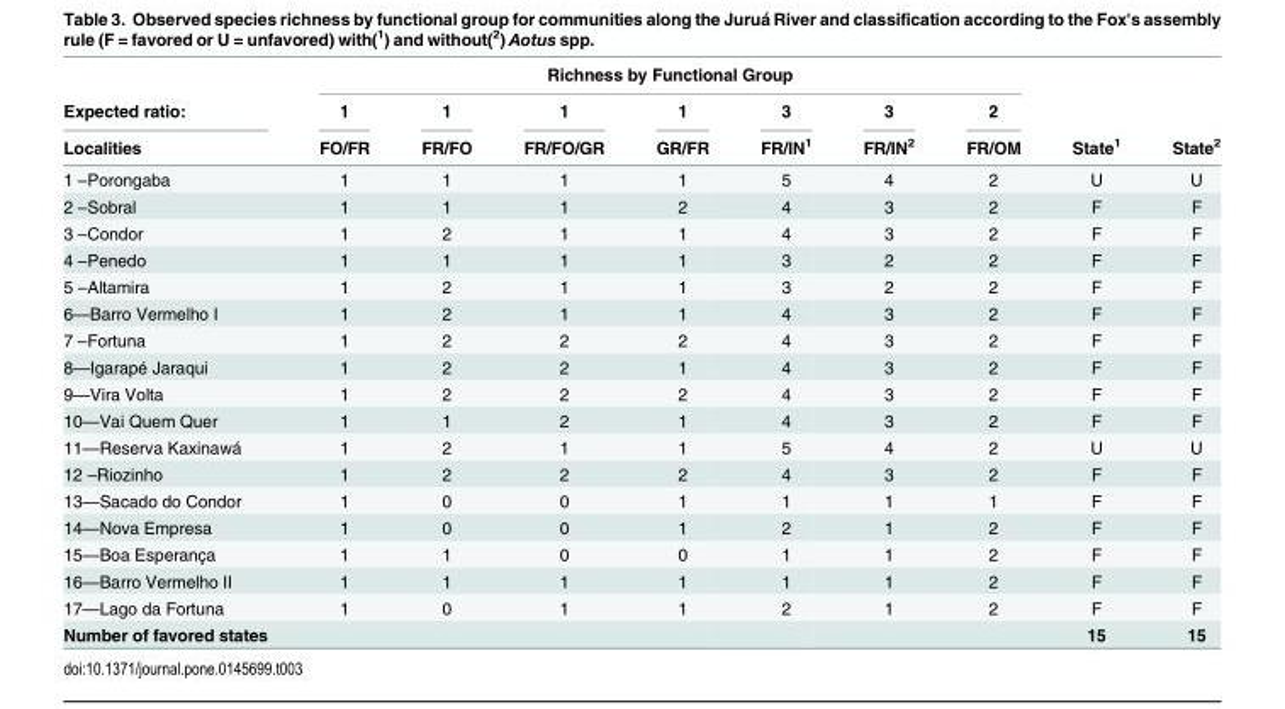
<table><thead><tr><td rowspan="3">Expected ratio: Localities</td><td colspan="7">Richness by Functional Group</td><td rowspan="3">State<sup>1</sup></td><td rowspan="3">State<sup>2</sup></td></tr><tr><td rowspan="2">1 FO/FR</td><td rowspan="2">1 FR/FO</td><td rowspan="2">1 FR/FO/GR</td><td rowspan="2">1 GR/FR</td><td rowspan="2">3 FR/IN1</td><td rowspan="2">3 FR/IN2</td><td rowspan="2">2 FR/OM</td></tr><tr></tr></thead><tbody><tr><td>1 –Porongaba</td><td>1</td><td>1</td><td>1</td><td>1</td><td>5</td><td>4</td><td>2</td><td>U</td><td>U</td></tr><tr><td>2 –Sobral</td><td>1</td><td>1</td><td>1</td><td>2</td><td>4</td><td>3</td><td>2</td><td>F</td><td>F</td></tr><tr><td>3 –Condor</td><td>1</td><td>2</td><td>1</td><td>1</td><td>4</td><td>3</td><td>2</td><td>F</td><td>F</td></tr><tr><td>4 –Penedo</td><td>1</td><td>1</td><td>1</td><td>1</td><td>3</td><td>2</td><td>2</td><td>F</td><td>F</td></tr><tr><td>5 –Altamira</td><td>1</td><td>2</td><td>1</td><td>1</td><td>3</td><td>2</td><td>2</td><td>F</td><td>F</td></tr><tr><td>6—Barro Vermelho I</td><td>1</td><td>2</td><td>1</td><td>1</td><td>4</td><td>3</td><td>2</td><td>F</td><td>F</td></tr><tr><td>7 –Fortuna</td><td>1</td><td>2</td><td>2</td><td>2</td><td>4</td><td>3</td><td>2</td><td>F</td><td>F</td></tr><tr><td>8—Igarapé Jaraqui</td><td>1</td><td>2</td><td>2</td><td>1</td><td>4</td><td>3</td><td>2</td><td>F</td><td>F</td></tr><tr><td>9—Vira Volta</td><td>1</td><td>2</td><td>2</td><td>2</td><td>4</td><td>3</td><td>2</td><td>F</td><td>F</td></tr><tr><td>10—Vai Quem Quer</td><td>1</td><td>1</td><td>2</td><td>1</td><td>4</td><td>3</td><td>2</td><td>F</td><td>F</td></tr><tr><td>11—Reserva Kaxinawá</td><td>1</td><td>2</td><td>1</td><td>1</td><td>5</td><td>4</td><td>2</td><td>U</td><td>U</td></tr><tr><td>12 –Riozinho</td><td>1</td><td>2</td><td>2</td><td>2</td><td>4</td><td>3</td><td>2</td><td>F</td><td>F</td></tr><tr><td>13—Sacado do Condor</td><td>1</td><td>0</td><td>0</td><td>1</td><td>1</td><td>1</td><td>1</td><td>F</td><td>F</td></tr><tr><td>14—Nova Empresa</td><td>1</td><td>0</td><td>0</td><td>1</td><td>2</td><td>1</td><td>2</td><td>F</td><td>F</td></tr><tr><td>15—Boa Esperança</td><td>1</td><td>1</td><td>0</td><td>0</td><td>1</td><td>1</td><td>2</td><td>F</td><td>F</td></tr><tr><td>16—Barro Vermelho II</td><td>1</td><td>1</td><td>1</td><td>1</td><td>1</td><td>1</td><td>2</td><td>F</td><td>F</td></tr><tr><td>17—Lago da Fortuna</td><td>1</td><td>0</td><td>1</td><td>1</td><td>2</td><td>1</td><td>2</td><td>F</td><td>F</td></tr><tr><td>Number of favored states</td><td></td><td></td><td></td><td></td><td></td><td></td><td></td><td>15</td><td>15</td></tr></tbody></table>